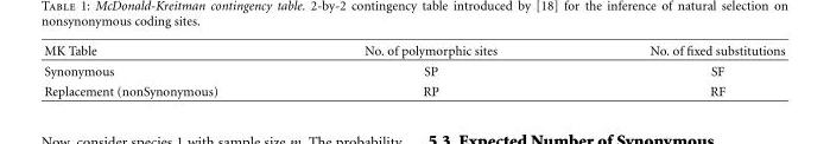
<table><thead><tr><td>MK Table</td><td>No. of polymorphic sites</td><td>No. of fixed substitutions</td></tr></thead><tbody><tr><td>Synonymous</td><td>SP</td><td>SF</td></tr><tr><td>Replacement (nonSynonymous)</td><td>RP</td><td>RF</td></tr></tbody></table>